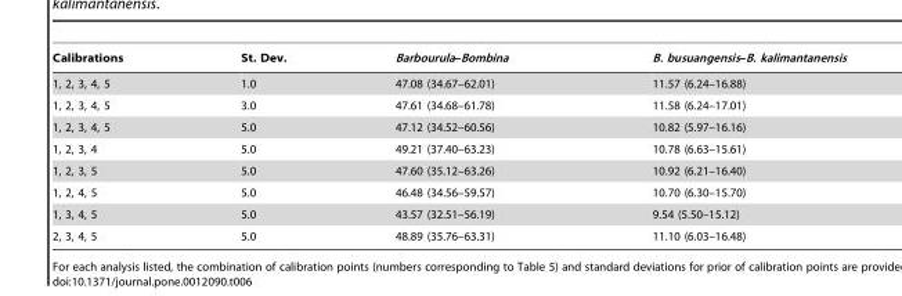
<table><thead><tr><td>Calibrations</td><td>St. Dev.</td><td>Barbourula–Bombina</td><td>B. busuangensis–B. kalimantanensis</td></tr></thead><tbody><tr><td>1, 2, 3, 4, 5</td><td>1.0</td><td>47.08 (34.67–62.01)</td><td>11.57 (6.24–16.88)</td></tr><tr><td>1, 2, 3, 4, 5</td><td>3.0</td><td>47.61 (34.68–61.78)</td><td>11.58 (6.24–17.01)</td></tr><tr><td>1, 2, 3, 4, 5</td><td>5.0</td><td>47.12 (34.52–60.56)</td><td>10.82 (5.97–16.16)</td></tr><tr><td>1, 2, 3, 4</td><td>5.0</td><td>49.21 (37.40–63.23)</td><td>10.78 (6.63–15.61)</td></tr><tr><td>1, 2, 3, 5</td><td>5.0</td><td>47.60 (35.12–63.26)</td><td>10.92 (6.21–16.40)</td></tr><tr><td>1, 2, 4, 5</td><td>5.0</td><td>46.48 (34.56–59.57)</td><td>10.70 (6.30–15.70)</td></tr><tr><td>1, 3, 4, 5</td><td>5.0</td><td>43.57 (32.51–56.19)</td><td>9.54 (5.50–15.12)</td></tr><tr><td>2, 3, 4, 5</td><td>5.0</td><td>48.89 (35.76–63.31)</td><td>11.10 (6.03–16.48)</td></tr></tbody></table>